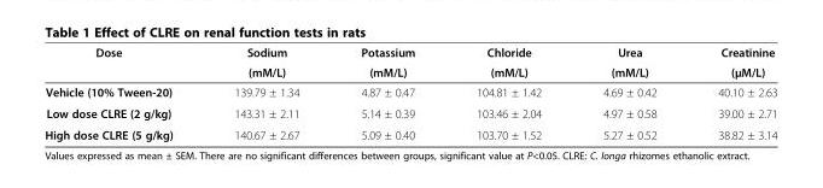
<table><thead><tr><td rowspan="2">Dose</td><td rowspan="2">Sodium (mM/L)</td><td rowspan="2">Potassium (mM/L)</td><td rowspan="2">Chloride (mM/L)</td><td rowspan="2">Urea (mM/L)</td><td rowspan="2">Creatinine (µM/L)</td></tr><tr></tr></thead><tbody><tr><td>Vehicle (10% Tween-20)</td><td>139.79 ± 1.34</td><td>4.87 ± 0.47</td><td>104.81 ± 1.42</td><td>4.69 ± 0.42</td><td>40.10 ± 2.63</td></tr><tr><td>Low dose CLRE (2 g/kg)</td><td>143.31 ± 2.11</td><td>5.14 ± 0.39</td><td>103.46 ± 2.04</td><td>4.97 ± 0.58</td><td>39.00 ± 2.71</td></tr><tr><td>High dose CLRE (5 g/kg)</td><td>140.67 ± 2.67</td><td>5.09 ± 0.40</td><td>103.70 ± 1.52</td><td>5.27 ± 0.52</td><td>38.82 ± 3.14</td></tr></tbody></table>